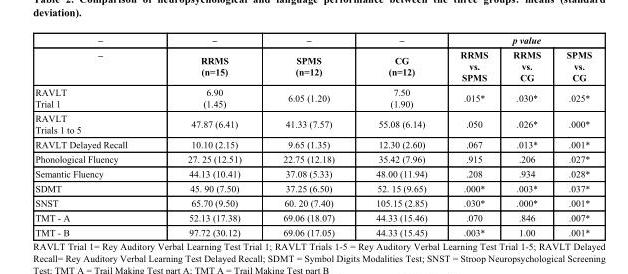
<table><thead><tr><td rowspan="2">– –</td><td rowspan="2">– RRMS (n=15)</td><td rowspan="2">– SPMS (n=12)</td><td rowspan="2">– CG (n=12)</td><td colspan="3">p value</td></tr><tr><td>RRMS vs. SPMS</td><td>RRMS vs. CG</td><td>SPMS vs. CG</td></tr></thead><tbody><tr><td>RAVLT Trial 1</td><td>6.90 (1.45)</td><td>6.05 (1.20)</td><td>7.50 (1.90)</td><td>.015*</td><td>.030*</td><td>.025*</td></tr><tr><td>RAVLT Trials 1 to 5</td><td>47.87 (6.41)</td><td>41.33 (7.57)</td><td>55.08 (6.14)</td><td>.050</td><td>.026*</td><td>.000*</td></tr><tr><td>RAVLT Delayed Recall</td><td>10.10 (2.15)</td><td>9.65 (1.35)</td><td>12.30 (2.60)</td><td>.067</td><td>.013*</td><td>.001*</td></tr><tr><td>Phonological Fluency</td><td>27. 25 (12.51)</td><td>22.75 (12.18)</td><td>35.42 (7.96)</td><td>.915</td><td>.206</td><td>.027*</td></tr><tr><td>Semantic Fluency</td><td>44.13 (10.41)</td><td>37.08 (5.33)</td><td>48.00 (11.94)</td><td>.208</td><td>.934</td><td>.028*</td></tr><tr><td>SDMT</td><td>45. 90 (7.50)</td><td>37.25 (6.50)</td><td>52. 15 (9.65)</td><td>.000*</td><td>.003*</td><td>.037*</td></tr><tr><td>SNST</td><td>65.70 (9.50)</td><td>60. 20 (7.40)</td><td>105.15 (2.85)</td><td>.030*</td><td>.000*</td><td>.001*</td></tr><tr><td>TMT - A</td><td>52.13 (17.38)</td><td>69.06 (18.07)</td><td>44.33 (15.46)</td><td>.070</td><td>.846</td><td>.007*</td></tr><tr><td>TMT - B</td><td>97.72 (30.12)</td><td>69.06 (17.05)</td><td>44.33 (15.45)</td><td>.003*</td><td>1.00</td><td>.001*</td></tr></tbody></table>